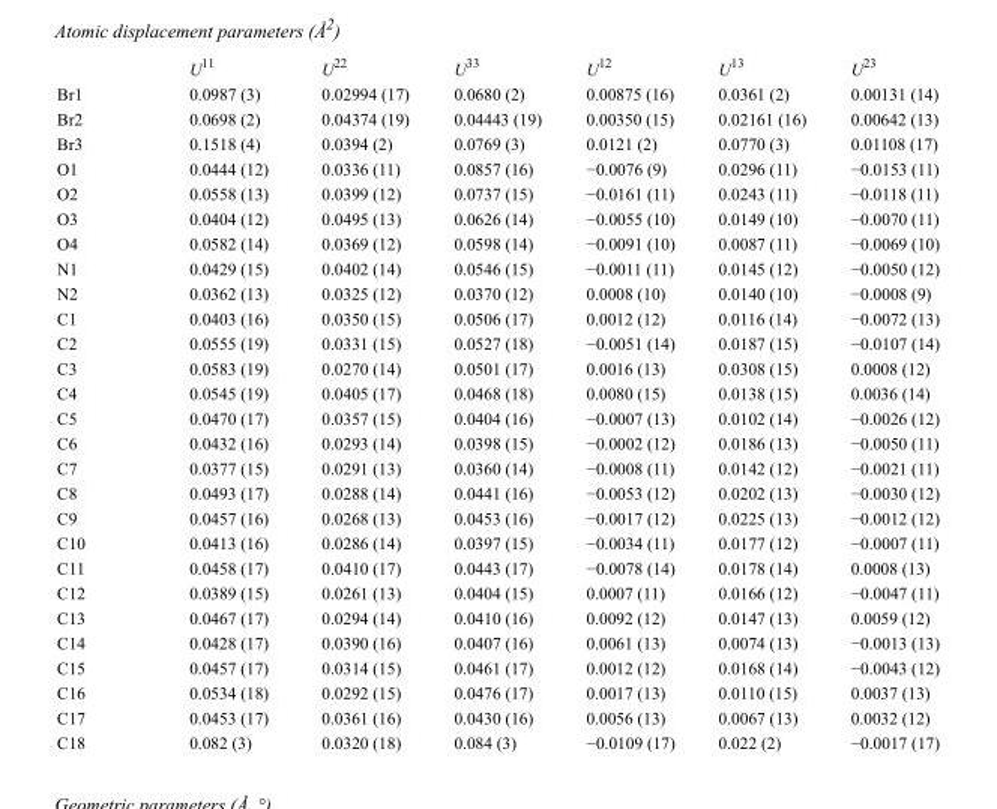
<table><thead><tr><td></td><td>U<sup>11</sup></td><td>U<sup>22</sup></td><td>U<sup>33</sup></td><td>U<sup>12</sup></td><td>U<sup>13</sup></td><td>U<sup>23</sup></td></tr></thead><tbody><tr><td>Br1</td><td>0.0987 (3)</td><td>0.02994 (17)</td><td>0.0680 (2)</td><td>0.00875 (16)</td><td>0.0361 (2)</td><td>0.00131 (14)</td></tr><tr><td>Br2</td><td>0.0698 (2)</td><td>0.04374 (19)</td><td>0.04443 (19)</td><td>0.00350 (15)</td><td>0.02161 (16)</td><td>0.00642 (13)</td></tr><tr><td>Br3</td><td>0.1518 (4)</td><td>0.0394 (2)</td><td>0.0769 (3)</td><td>0.0121 (2)</td><td>0.0770 (3)</td><td>0.01108 (17)</td></tr><tr><td>O1</td><td>0.0444 (12)</td><td>0.0336 (11)</td><td>0.0857 (16)</td><td>−0.0076 (9)</td><td>0.0296 (11)</td><td>−0.0153 (11)</td></tr><tr><td>O2</td><td>0.0558 (13)</td><td>0.0399 (12)</td><td>0.0737 (15)</td><td>−0.0161 (11)</td><td>0.0243 (11)</td><td>−0.0118 (11)</td></tr><tr><td>O3</td><td>0.0404 (12)</td><td>0.0495 (13)</td><td>0.0626 (14)</td><td>−0.0055 (10)</td><td>0.0149 (10)</td><td>−0.0070 (11)</td></tr><tr><td>O4</td><td>0.0582 (14)</td><td>0.0369 (12)</td><td>0.0598 (14)</td><td>−0.0091 (10)</td><td>0.0087 (11)</td><td>−0.0069 (10)</td></tr><tr><td>N1</td><td>0.0429 (15)</td><td>0.0402 (14)</td><td>0.0546 (15)</td><td>−0.0011 (11)</td><td>0.0145 (12)</td><td>−0.0050 (12)</td></tr><tr><td>N2</td><td>0.0362 (13)</td><td>0.0325 (12)</td><td>0.0370 (12)</td><td>0.0008 (10)</td><td>0.0140 (10)</td><td>−0.0008 (9)</td></tr><tr><td>C1</td><td>0.0403 (16)</td><td>0.0350 (15)</td><td>0.0506 (17)</td><td>0.0012 (12)</td><td>0.0116 (14)</td><td>−0.0072 (13)</td></tr><tr><td>C2</td><td>0.0555 (19)</td><td>0.0331 (15)</td><td>0.0527 (18)</td><td>−0.0051 (14)</td><td>0.0187 (15)</td><td>−0.0107 (14)</td></tr><tr><td>C3</td><td>0.0583 (19)</td><td>0.0270 (14)</td><td>0.0501 (17)</td><td>0.0016 (13)</td><td>0.0308 (15)</td><td>0.0008 (12)</td></tr><tr><td>C4</td><td>0.0545 (19)</td><td>0.0405 (17)</td><td>0.0468 (18)</td><td>0.0080 (15)</td><td>0.0138 (15)</td><td>0.0036 (14)</td></tr><tr><td>C5</td><td>0.0470 (17)</td><td>0.0357 (15)</td><td>0.0404 (16)</td><td>−0.0007 (13)</td><td>0.0102 (14)</td><td>−0.0026 (12)</td></tr><tr><td>C6</td><td>0.0432 (16)</td><td>0.0293 (14)</td><td>0.0398 (15)</td><td>−0.0002 (12)</td><td>0.0186 (13)</td><td>−0.0050 (11)</td></tr><tr><td>C7</td><td>0.0377 (15)</td><td>0.0291 (13)</td><td>0.0360 (14)</td><td>−0.0008 (11)</td><td>0.0142 (12)</td><td>−0.0021 (11)</td></tr><tr><td>C8</td><td>0.0493 (17)</td><td>0.0288 (14)</td><td>0.0441 (16)</td><td>−0.0053 (12)</td><td>0.0202 (13)</td><td>−0.0030 (12)</td></tr><tr><td>C9</td><td>0.0457 (16)</td><td>0.0268 (13)</td><td>0.0453 (16)</td><td>−0.0017 (12)</td><td>0.0225 (13)</td><td>−0.0012 (12)</td></tr><tr><td>C10</td><td>0.0413 (16)</td><td>0.0286 (14)</td><td>0.0397 (15)</td><td>−0.0034 (11)</td><td>0.0177 (12)</td><td>−0.0007 (11)</td></tr><tr><td>C11</td><td>0.0458 (17)</td><td>0.0410 (17)</td><td>0.0443 (17)</td><td>−0.0078 (14)</td><td>0.0178 (14)</td><td>0.0008 (13)</td></tr><tr><td>C12</td><td>0.0389 (15)</td><td>0.0261 (13)</td><td>0.0404 (15)</td><td>0.0007 (11)</td><td>0.0166 (12)</td><td>−0.0047 (11)</td></tr><tr><td>C13</td><td>0.0467 (17)</td><td>0.0294 (14)</td><td>0.0410 (16)</td><td>0.0092 (12)</td><td>0.0147 (13)</td><td>0.0059 (12)</td></tr><tr><td>C14</td><td>0.0428 (17)</td><td>0.0390 (16)</td><td>0.0407 (16)</td><td>0.0061 (13)</td><td>0.0074 (13)</td><td>−0.0013 (13)</td></tr><tr><td>C15</td><td>0.0457 (17)</td><td>0.0314 (15)</td><td>0.0461 (17)</td><td>0.0012 (12)</td><td>0.0168 (14)</td><td>−0.0043 (12)</td></tr><tr><td>C16</td><td>0.0534 (18)</td><td>0.0292 (15)</td><td>0.0476 (17)</td><td>0.0017 (13)</td><td>0.0110 (15)</td><td>0.0037 (13)</td></tr><tr><td>C17</td><td>0.0453 (17)</td><td>0.0361 (16)</td><td>0.0430 (16)</td><td>0.0056 (13)</td><td>0.0067 (13)</td><td>0.0032 (12)</td></tr><tr><td>C18</td><td>0.082 (3)</td><td>0.0320 (18)</td><td>0.084 (3)</td><td>−0.0109 (17)</td><td>0.022 (2)</td><td>−0.0017 (17)</td></tr></tbody></table>